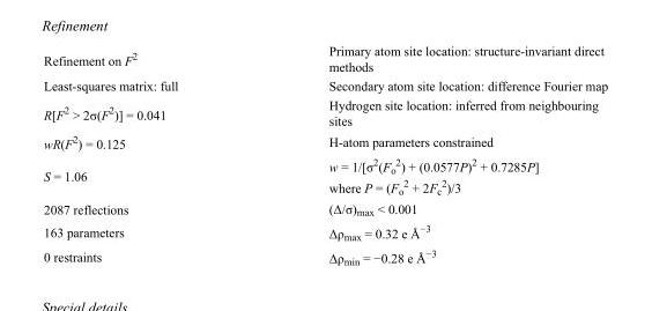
<table><tbody><tr><td>Refinement on F<sup>2</sup></td><td>Primary atom site location: structure-invariant direct methods</td></tr><tr><td>Least-squares matrix: full</td><td>Secondary atom site location: difference Fourier map</td></tr><tr><td>R[F<sup>2</sup> &gt; 2σ(F<sup>2</sup>)] = 0.041</td><td>Hydrogen site location: inferred from neighbouring sites</td></tr><tr><td>wR(F<sup>2</sup>) = 0.125</td><td>H-atom parameters constrained</td></tr><tr><td>S = 1.06</td><td>w = 1/[σ<sup>2</sup>(F<sub>o</sub> <sup>2</sup>) + (0.0577P)<sup>2</sup> + 0.7285P] where P = (F<sub>o</sub> <sup>2</sup> + 2F<sub>c</sub> <sup>2</sup>)/3</td></tr><tr><td>2087 reflections</td><td>(Δ/σ)<sub>max</sub> &lt; 0.001</td></tr><tr><td>163 parameters</td><td>Δρ<sub>max</sub> = 0.32 e Å<sup>−3</sup></td></tr><tr><td>0 restraints</td><td>Δρ<sub>min</sub> = −0.28 e Å<sup>−3</sup></td></tr></tbody></table>